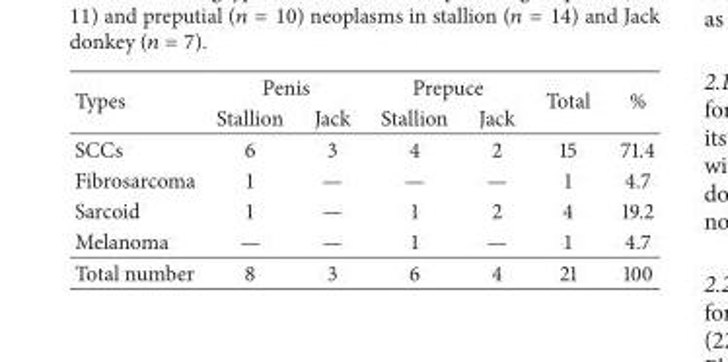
<table><thead><tr><td rowspan="2">Types</td><td colspan="2">Penis</td><td colspan="2">Prepuce</td><td rowspan="2">Total</td><td rowspan="2">%</td></tr><tr><td>Stallion</td><td>Jack</td><td>Stallion</td><td>Jack</td></tr></thead><tbody><tr><td>SCCs</td><td>6</td><td>3</td><td>4</td><td>2</td><td>15</td><td>71.4</td></tr><tr><td>Fibrosarcoma</td><td>1</td><td>—</td><td>—</td><td>—</td><td>1</td><td>4.7</td></tr><tr><td>Sarcoid</td><td>1</td><td>—</td><td>1</td><td>2</td><td>4</td><td>19.2</td></tr><tr><td>Melanoma</td><td>—</td><td>—</td><td>1</td><td>—</td><td>1</td><td>4.7</td></tr><tr><td>Total number</td><td>8</td><td>3</td><td>6</td><td>4</td><td>21</td><td>100</td></tr></tbody></table>